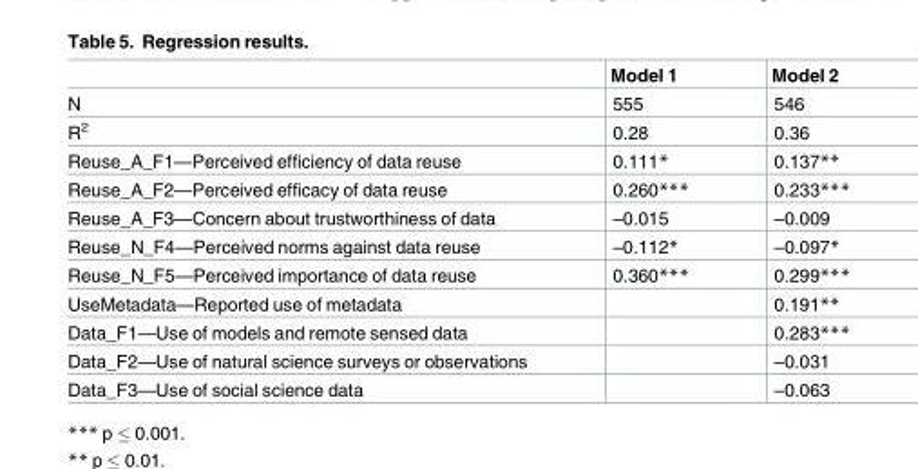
<table><thead><tr><td></td><td>Model 1</td><td>Model 2</td></tr></thead><tbody><tr><td>N</td><td>555</td><td>546</td></tr><tr><td>R<sup>2</sup></td><td>0.28</td><td>0.36</td></tr><tr><td>Reuse_A_F1—Perceived efficiency of data reuse</td><td>0.111*</td><td>0.137**</td></tr><tr><td>Reuse_A_F2—Perceived efficacy of data reuse</td><td>0.260***</td><td>0.233***</td></tr><tr><td>Reuse_A_F3—Concern about trustworthiness of data</td><td>–0.015</td><td>–0.009</td></tr><tr><td>Reuse_N_F4—Perceived norms against data reuse</td><td>–0.112*</td><td>–0.097*</td></tr><tr><td>Reuse_N_F5—Perceived importance of data reuse</td><td>0.360***</td><td>0.299***</td></tr><tr><td>UseMetadata—Reported use of metadata</td><td></td><td>0.191**</td></tr><tr><td>Data_F1—Use of models and remote sensed data</td><td></td><td>0.283***</td></tr><tr><td>Data_F2—Use of natural science surveys or observations</td><td></td><td>–0.031</td></tr><tr><td>Data_F3—Use of social science data</td><td></td><td>–0.063</td></tr></tbody></table>